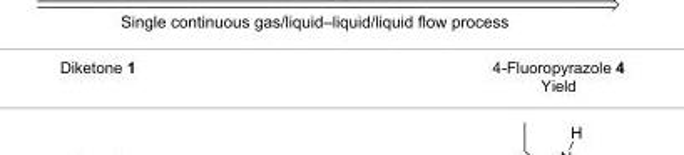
<table><tbody><tr><td>Diketone 1</td><td>4-Fluoropyrazole 4 Yield</td></tr></tbody></table>